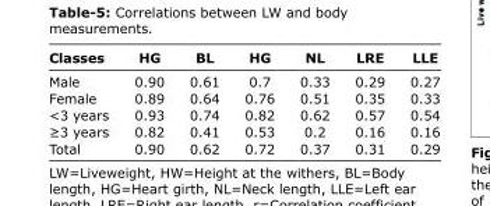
<table><thead><tr><td>Classes</td><td>HG</td><td>BL</td><td>HG</td><td>NL</td><td>LRE</td><td>LLE</td></tr></thead><tbody><tr><td>Male</td><td>0.90</td><td>0.61</td><td>0.7</td><td>0.33</td><td>0.29</td><td>0.27</td></tr><tr><td>Female</td><td>0.89</td><td>0.64</td><td>0.76</td><td>0.51</td><td>0.35</td><td>0.33</td></tr><tr><td>&lt;3 years</td><td>0.93</td><td>0.74</td><td>0.82</td><td>0.62</td><td>0.57</td><td>0.54</td></tr><tr><td>≥3 years</td><td>0.82</td><td>0.41</td><td>0.53</td><td>0.2</td><td>0.16</td><td>0.16</td></tr><tr><td>Total</td><td>0.90</td><td>0.62</td><td>0.72</td><td>0.37</td><td>0.31</td><td>0.29</td></tr></tbody></table>